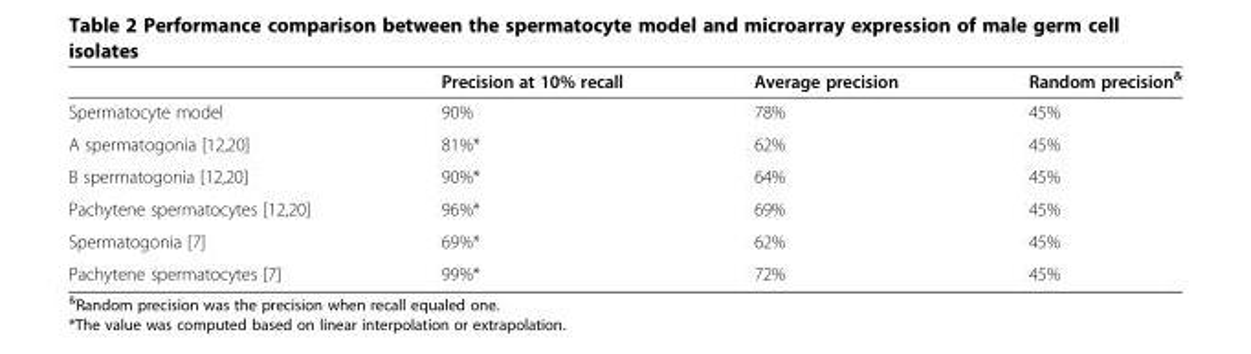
<table><thead><tr><td></td><td>Precision at 10% recall</td><td>Average precision</td><td>Random precision<sup>&amp;</sup></td></tr></thead><tbody><tr><td>Spermatocyte model</td><td>90%</td><td>78%</td><td>45%</td></tr><tr><td>A spermatogonia [12,20]</td><td>81%*</td><td>62%</td><td>45%</td></tr><tr><td>B spermatogonia [12,20]</td><td>90%*</td><td>64%</td><td>45%</td></tr><tr><td>Pachytene spermatocytes [12,20]</td><td>96%*</td><td>69%</td><td>45%</td></tr><tr><td>Spermatogonia [7]</td><td>69%*</td><td>62%</td><td>45%</td></tr><tr><td>Pachytene spermatocytes [7]</td><td>99%*</td><td>72%</td><td>45%</td></tr></tbody></table>